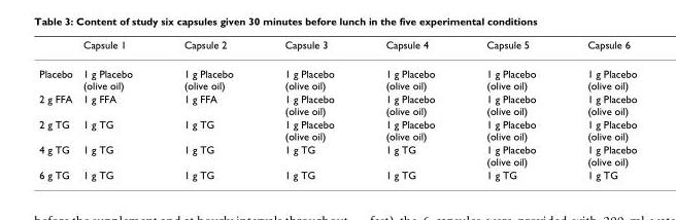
<table><thead><tr><td></td><td>Capsule 1</td><td>Capsule 2</td><td>Capsule 3</td><td>Capsule 4</td><td>Capsule 5</td><td>Capsule 6</td></tr></thead><tbody><tr><td>Placebo</td><td>1 g Placebo (olive oil)</td><td>1 g Placebo (olive oil)</td><td>1 g Placebo (olive oil)</td><td>1 g Placebo (olive oil)</td><td>1 g Placebo (olive oil)</td><td>1 g Placebo (olive oil)</td></tr><tr><td>2 g FFA</td><td>1 g FFA</td><td>1 g FFA</td><td>1 g Placebo (olive oil)</td><td>1 g Placebo (olive oil)</td><td>1 g Placebo (olive oil)</td><td>1 g Placebo (olive oil)</td></tr><tr><td>2 g TG</td><td>1 g TG</td><td>1 g TG</td><td>1 g Placebo (olive oil)</td><td>1 g Placebo (olive oil)</td><td>1 g Placebo (olive oil)</td><td>1 g Placebo (olive oil)</td></tr><tr><td>4 g TG</td><td>1 g TG</td><td>1 g TG</td><td>1 g TG</td><td>1 g TG</td><td>1 g Placebo (olive oil)</td><td>1 g Placebo (olive oil)</td></tr><tr><td>6 g TG</td><td>1 g TG</td><td>1 g TG</td><td>1 g TG</td><td>1 g TG</td><td>1 g TG</td><td>1 g TG</td></tr></tbody></table>